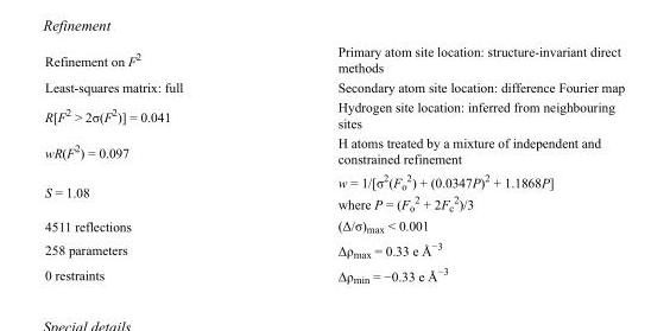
<table><tbody><tr><td>Refinement on F<sup>2</sup></td><td>Primary atom site location: structure-invariant direct methods</td></tr><tr><td>Least-squares matrix: full</td><td>Secondary atom site location: difference Fourier map</td></tr><tr><td>R[F<sup>2</sup> &gt; 2σ(F<sup>2</sup>)] = 0.041</td><td>Hydrogen site location: inferred from neighbouring sites</td></tr><tr><td>wR(F<sup>2</sup>) = 0.097</td><td>H atoms treated by a mixture of independent and constrained refinement</td></tr><tr><td>S = 1.08</td><td>w = 1/[σ<sup>2</sup>(F<sub>o</sub> <sup>2</sup>) + (0.0347P)<sup>2</sup> + 1.1868P] where P = (F<sub>o</sub> <sup>2</sup> + 2F<sub>c</sub> <sup>2</sup>)/3</td></tr><tr><td>4511 reflections</td><td>(Δ/σ)<sub>max</sub> &lt; 0.001</td></tr><tr><td>258 parameters</td><td>Δρ<sub>max</sub> = 0.33 e Å<sup>−3</sup></td></tr><tr><td>0 restraints</td><td>Δρ<sub>min</sub> = −0.33 e Å<sup>−3</sup></td></tr></tbody></table>